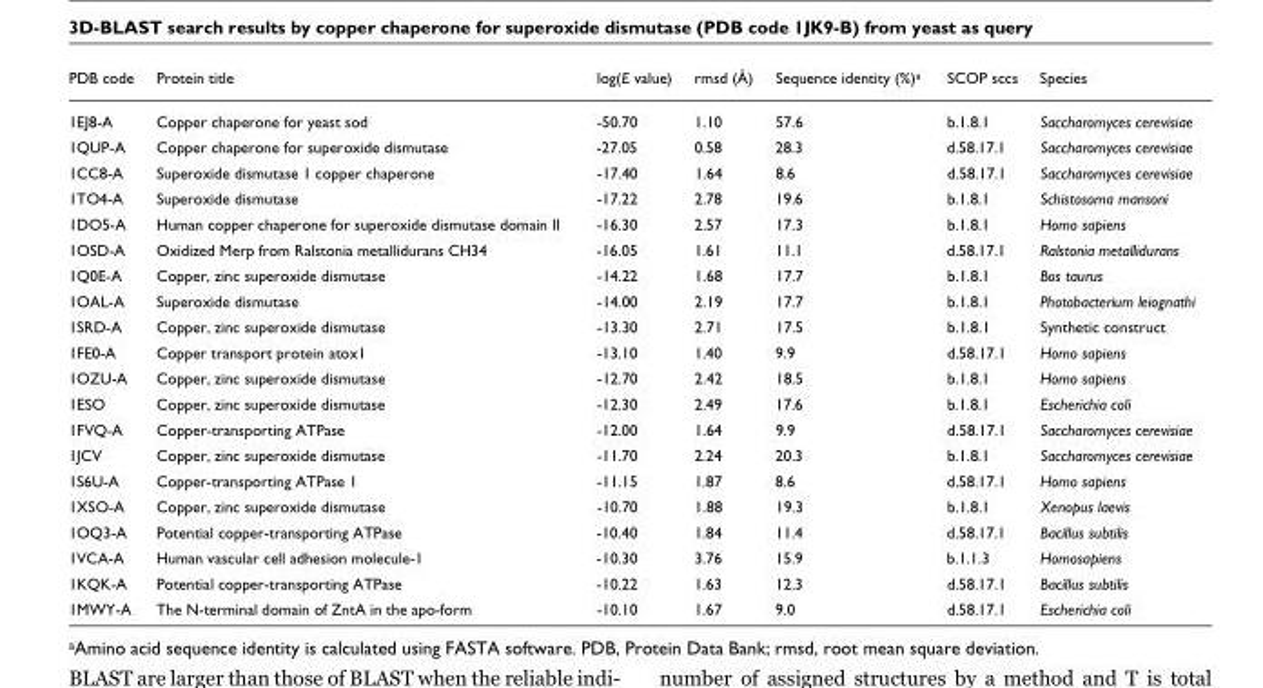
<table><thead><tr><td>PDB code</td><td>Protein title</td><td>log(E value)</td><td>rmsd (Å)</td><td>Sequence identity (%)<sup>a</sup></td><td>SCOP sccs</td><td>Species</td></tr></thead><tbody><tr><td>1EJ8-A</td><td>Copper chaperone for yeast sod</td><td>-50.70</td><td>1.10</td><td>57.6</td><td>b.1.8.1</td><td>Saccharomyces cerevisiae</td></tr><tr><td>1QUP-A</td><td>Copper chaperone for superoxide dismutase</td><td>-27.05</td><td>0.58</td><td>28.3</td><td>d.58.17.1</td><td>Saccharomyces cerevisiae</td></tr><tr><td>1CC8-A</td><td>Superoxide dismutase 1 copper chaperone</td><td>-17.40</td><td>1.64</td><td>8.6</td><td>d.58.17.1</td><td>Saccharomyces cerevisiae</td></tr><tr><td>1TO4-A</td><td>Superoxide dismutase</td><td>-17.22</td><td>2.78</td><td>19.6</td><td>b.1.8.1</td><td>Schistosoma mansoni</td></tr><tr><td>1DO5-A</td><td>Human copper chaperone for superoxide dismutase domain II</td><td>-16.30</td><td>2.57</td><td>17.3</td><td>b.1.8.1</td><td>Homo sapiens</td></tr><tr><td>1OSD-A</td><td>Oxidized Merp from Ralstonia metallidurans CH34</td><td>-16.05</td><td>1.61</td><td>11.1</td><td>d.58.17.1</td><td>Ralstonia metallidurans</td></tr><tr><td>1Q0E-A</td><td>Copper, zinc superoxide dismutase</td><td>-14.22</td><td>1.68</td><td>17.7</td><td>b.1.8.1</td><td>Bos taurus</td></tr><tr><td>1OAL-A</td><td>Superoxide dismutase</td><td>-14.00</td><td>2.19</td><td>17.7</td><td>b.1.8.1</td><td>Photobacterium leiognathi</td></tr><tr><td>1SRD-A</td><td>Copper, zinc superoxide dismutase</td><td>-13.30</td><td>2.71</td><td>17.5</td><td>b.1.8.1</td><td>Synthetic construct</td></tr><tr><td>1FE0-A</td><td>Copper transport protein atox1</td><td>-13.10</td><td>1.40</td><td>9.9</td><td>d.58.17.1</td><td>Homo sapiens</td></tr><tr><td>1OZU-A</td><td>Copper, zinc superoxide dismutase</td><td>-12.70</td><td>2.42</td><td>18.5</td><td>b.1.8.1</td><td>Homo sapiens</td></tr><tr><td>1ESO</td><td>Copper, zinc superoxide dismutase</td><td>-12.30</td><td>2.49</td><td>17.6</td><td>b.1.8.1</td><td>Escherichia coli</td></tr><tr><td>1FVQ-A</td><td>Copper-transporting ATPase</td><td>-12.00</td><td>1.64</td><td>9.9</td><td>d.58.17.1</td><td>Saccharomyces cerevisiae</td></tr><tr><td>1JCV</td><td>Copper, zinc superoxide dismutase</td><td>-11.70</td><td>2.24</td><td>20.3</td><td>b.1.8.1</td><td>Saccharomyces cerevisiae</td></tr><tr><td>1S6U-A</td><td>Copper-transporting ATPase 1</td><td>-11.15</td><td>1.87</td><td>8.6</td><td>d.58.17.1</td><td>Homo sapiens</td></tr><tr><td>1XSO-A</td><td>Copper, zinc superoxide dismutase</td><td>-10.70</td><td>1.88</td><td>19.3</td><td>b.1.8.1</td><td>Xenopus laevis</td></tr><tr><td>1OQ3-A</td><td>Potential copper-transporting ATPase</td><td>-10.40</td><td>1.84</td><td>11.4</td><td>d.58.17.1</td><td>Bacillus subtilis</td></tr><tr><td>1VCA-A</td><td>Human vascular cell adhesion molecule-1</td><td>-10.30</td><td>3.76</td><td>15.9</td><td>b.1.1.3</td><td>Homosapiens</td></tr><tr><td>1KQK-A</td><td>Potential copper-transporting ATPase</td><td>-10.22</td><td>1.63</td><td>12.3</td><td>d.58.17.1</td><td>Bacillus subtilis</td></tr><tr><td>1MWY-A</td><td>The N-terminal domain of ZntA in the apo-form</td><td>-10.10</td><td>1.67</td><td>9.0</td><td>d.58.17.1</td><td>Escherichia coli</td></tr></tbody></table>